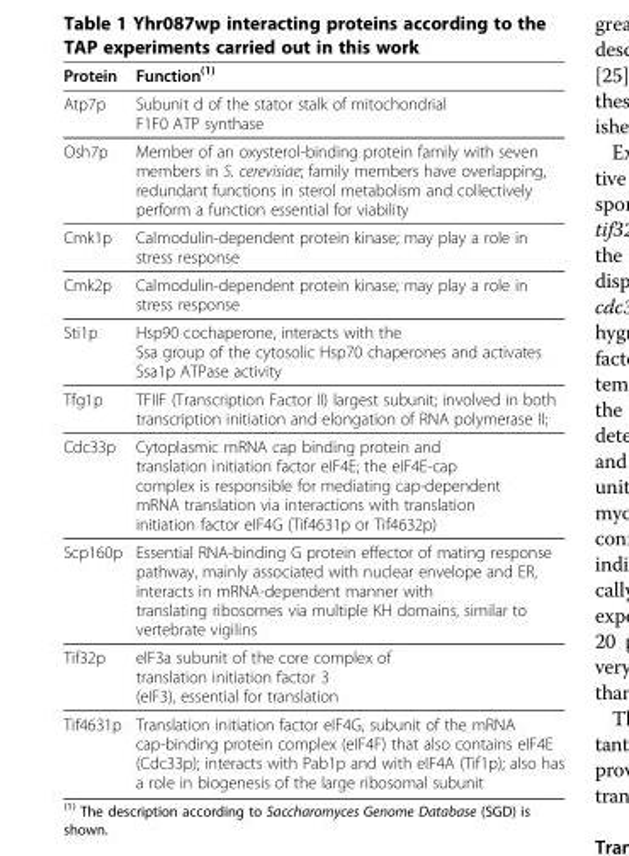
<table><thead><tr><td>Protein</td><td>Function<sup>(1)</sup></td></tr></thead><tbody><tr><td>Atp7p</td><td>Subunit d of the stator stalk of mitochondrial F1F0 ATP synthase</td></tr><tr><td>Osh7p</td><td>Member of an oxysterol-binding protein family with seven members in S. cerevisiae; family members have overlapping, redundant functions in sterol metabolism and collectively perform a function essential for viability</td></tr><tr><td>Cmk1p</td><td>Calmodulin-dependent protein kinase; may play a role in stress response</td></tr><tr><td>Cmk2p</td><td>Calmodulin-dependent protein kinase; may play a role in stress response</td></tr><tr><td>Sti1p</td><td>Hsp90 cochaperone, interacts with the Ssa group of the cytosolic Hsp70 chaperones and activates Ssa1p ATPase activity</td></tr><tr><td>Tfg1p</td><td>TFIIF (Transcription Factor II) largest subunit; involved in both transcription initiation and elongation of RNA polymerase II;</td></tr><tr><td>Cdc33p</td><td>Cytoplasmic mRNA cap binding protein and translation initiation factor eIF4E; the eIF4E-cap complex is responsible for mediating cap-dependent mRNA translation via interactions with translation initiation factor eIF4G (Tif4631p or Tif4632p)</td></tr><tr><td>Scp160p</td><td>Essential RNA-binding G protein effector of mating response pathway, mainly associated with nuclear envelope and ER, interacts in mRNA-dependent manner with translating ribosomes via multiple KH domains, similar to vertebrate vigilins</td></tr><tr><td>Tif32p</td><td>eIF3a subunit of the core complex of translation initiation factor 3 (eIF3), essential for translation</td></tr><tr><td>Tif4631p</td><td>Translation initiation factor eIF4G, subunit of the mRNA cap-binding protein complex (eIF4F) that also contains eIF4E (Cdc33p); interacts with Pab1p and with eIF4A (Tif1p); also has a role in biogenesis of the large ribosomal subunit</td></tr></tbody></table>